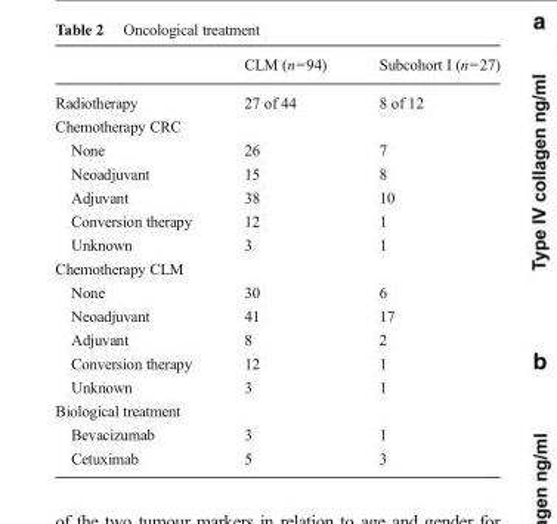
<table><thead><tr><td></td><td>CLM (n=94)</td><td>Subcohort I (n=27)</td></tr></thead><tbody><tr><td>Radiotherapy</td><td>27 of 44</td><td>8 of 12</td></tr><tr><td colspan="3">Chemotherapy CRC</td></tr><tr><td>None</td><td>26</td><td>7</td></tr><tr><td>Neoadjuvant</td><td>15</td><td>8</td></tr><tr><td>Adjuvant</td><td>38</td><td>10</td></tr><tr><td>Conversion therapy</td><td>12</td><td>1</td></tr><tr><td>Unknown</td><td>3</td><td>1</td></tr><tr><td colspan="3">Chemotherapy CLM</td></tr><tr><td>None</td><td>30</td><td>6</td></tr><tr><td>Neoadjuvant</td><td>41</td><td>17</td></tr><tr><td>Adjuvant</td><td>8</td><td>2</td></tr><tr><td>Conversion therapy</td><td>12</td><td>1</td></tr><tr><td>Unknown</td><td>3</td><td>1</td></tr><tr><td colspan="3">Biological treatment</td></tr><tr><td>Bevacizumab</td><td>3</td><td>1</td></tr><tr><td>Cetuximab</td><td>5</td><td>3</td></tr></tbody></table>